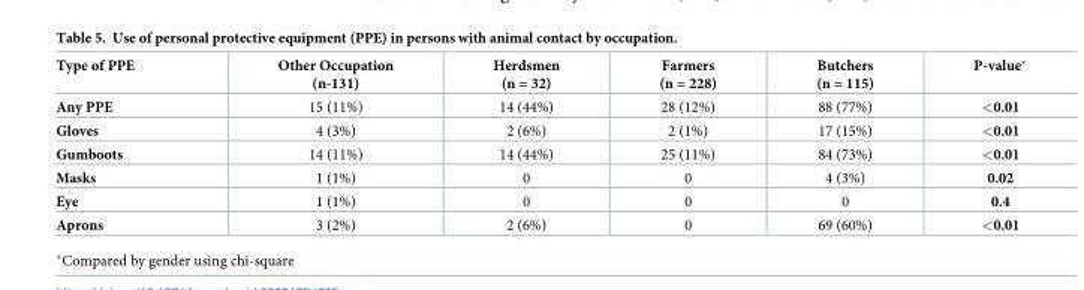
<table><thead><tr><td>Type of PPE</td><td>Other Occupation (n-131)</td><td>Herdsmen (n = 32)</td><td>Farmers (n = 228)</td><td>Butchers (n = 115)</td><td>P-value*</td></tr></thead><tbody><tr><td>Any PPE</td><td>15 (11%)</td><td>14 (44%)</td><td>28 (12%)</td><td>88 (77%)</td><td>&lt;0.01</td></tr><tr><td>Gloves</td><td>4 (3%)</td><td>2 (6%)</td><td>2 (1%)</td><td>17 (15%)</td><td>&lt;0.01</td></tr><tr><td>Gumboots</td><td>14 (11%)</td><td>14 (44%)</td><td>25 (11%)</td><td>84 (73%)</td><td>&lt;0.01</td></tr><tr><td>Masks</td><td>1 (1%)</td><td>0</td><td>0</td><td>4 (3%)</td><td>0.02</td></tr><tr><td>Eye</td><td>1 (1%)</td><td>0</td><td>0</td><td>0</td><td>0.4</td></tr><tr><td>Aprons</td><td>3 (2%)</td><td>2 (6%)</td><td>0</td><td>69 (60%)</td><td>&lt;0.01</td></tr></tbody></table>